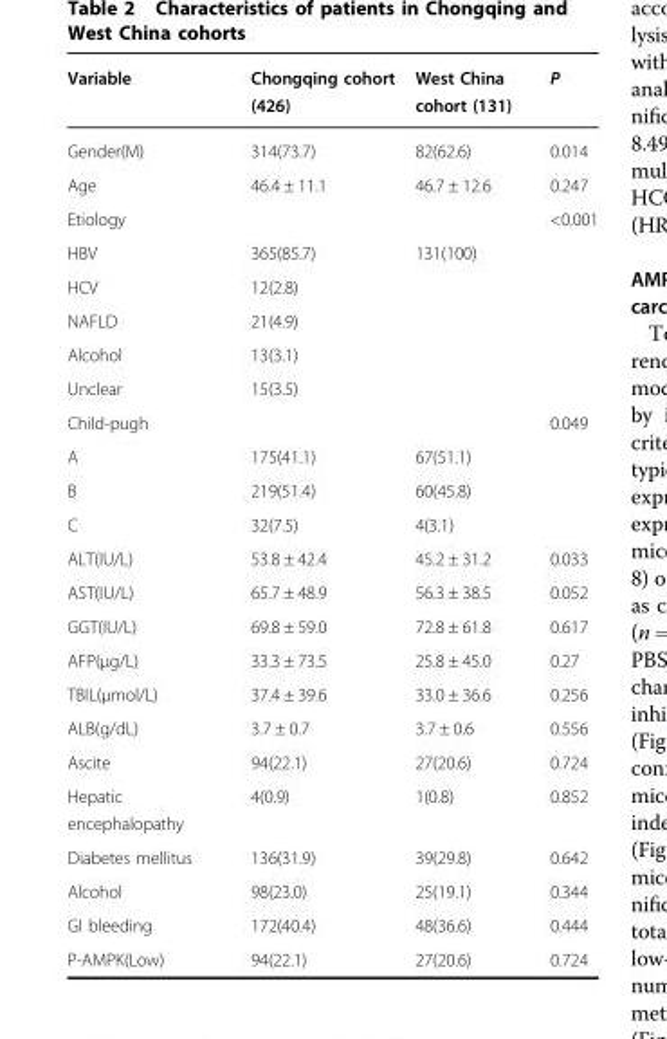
<table><thead><tr><td>Variable</td><td>Chongqing cohort (426)</td><td>West China cohort (131)</td><td>P</td></tr></thead><tbody><tr><td>Gender(M)</td><td>314(73.7)</td><td>82(62.6)</td><td>0.014</td></tr><tr><td>Age</td><td>46.4 ± 11.1</td><td>46.7 ± 12.6</td><td>0.247</td></tr><tr><td>Etiology</td><td></td><td></td><td>&lt;0.001</td></tr><tr><td>HBV</td><td>365(85.7)</td><td>131(100)</td><td></td></tr><tr><td>HCV</td><td>12(2.8)</td><td></td><td></td></tr><tr><td>NAFLD</td><td>21(4.9)</td><td></td><td></td></tr><tr><td>Alcohol</td><td>13(3.1)</td><td></td><td></td></tr><tr><td>Unclear</td><td>15(3.5)</td><td></td><td></td></tr><tr><td>Child-pugh</td><td></td><td></td><td>0.049</td></tr><tr><td>A</td><td>175(41.1)</td><td>67(51.1)</td><td></td></tr><tr><td>B</td><td>219(51.4)</td><td>60(45.8)</td><td></td></tr><tr><td>C</td><td>32(7.5)</td><td>4(3.1)</td><td></td></tr><tr><td>ALT(IU/L)</td><td>53.8 ± 42.4</td><td>45.2 ± 31.2</td><td>0.033</td></tr><tr><td>AST(IU/L)</td><td>65.7 ± 48.9</td><td>56.3 ± 38.5</td><td>0.052</td></tr><tr><td>GGT(IU/L)</td><td>69.8 ± 59.0</td><td>72.8 ± 61.8</td><td>0.617</td></tr><tr><td>AFP(μg/L)</td><td>33.3 ± 73.5</td><td>25.8 ± 45.0</td><td>0.27</td></tr><tr><td>TBIL(μmol/L)</td><td>37.4 ± 39.6</td><td>33.0 ± 36.6</td><td>0.256</td></tr><tr><td>ALB(g/dL)</td><td>3.7 ± 0.7</td><td>3.7 ± 0.6</td><td>0.556</td></tr><tr><td>Ascite</td><td>94(22.1)</td><td>27(20.6)</td><td>0.724</td></tr><tr><td>Hepatic encephalopathy</td><td>4(0.9)</td><td>1(0.8)</td><td>0.852</td></tr><tr><td>Diabetes mellitus</td><td>136(31.9)</td><td>39(29.8)</td><td>0.642</td></tr><tr><td>Alcohol</td><td>98(23.0)</td><td>25(19.1)</td><td>0.344</td></tr><tr><td>GI bleeding</td><td>172(40.4)</td><td>48(36.6)</td><td>0.444</td></tr><tr><td>P-AMPK(Low)</td><td>94(22.1)</td><td>27(20.6)</td><td>0.724</td></tr></tbody></table>